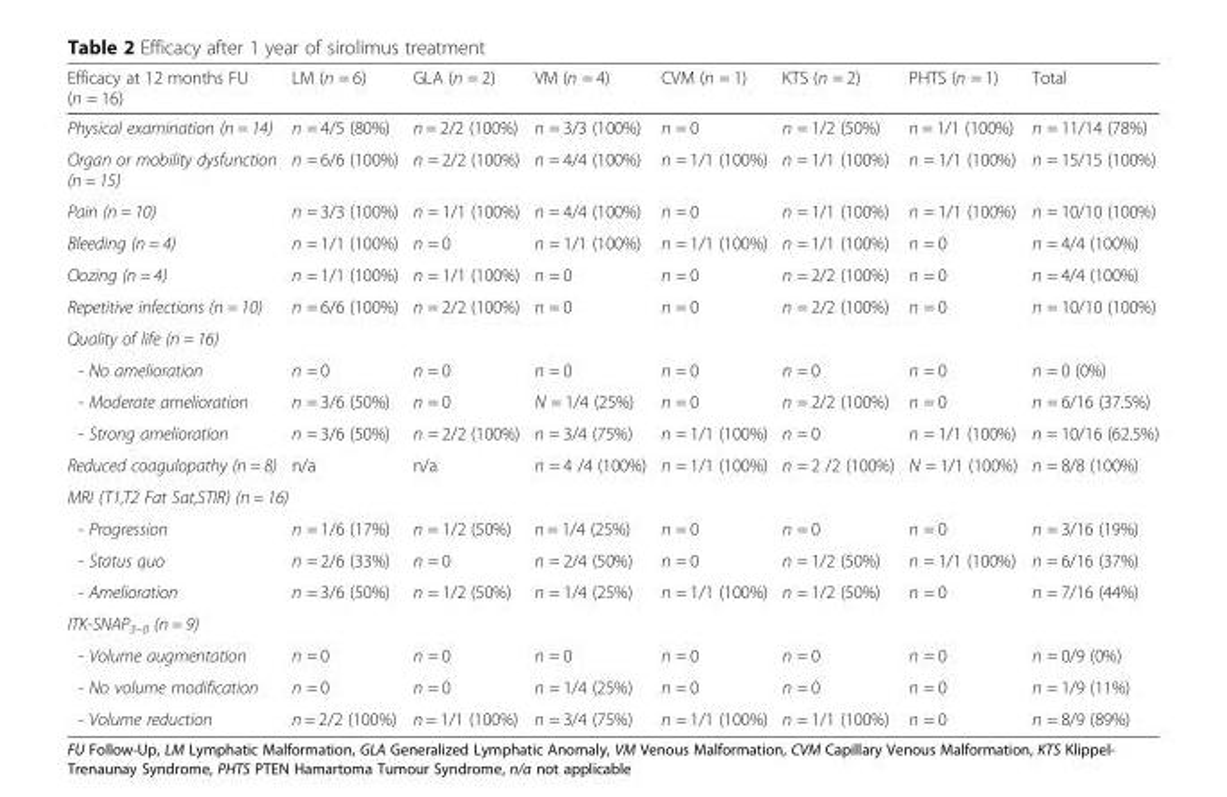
<table><thead><tr><td>Efficacy at 12 months FU (n = 16)</td><td>LM (n = 6)</td><td>GLA (n = 2)</td><td>VM (n = 4)</td><td>CVM (n = 1)</td><td>KTS (n = 2)</td><td>PHTS (n = 1)</td><td>Total</td></tr></thead><tbody><tr><td>Physical examination (n = 14)</td><td>n = 4/5 (80%)</td><td>n = 2/2 (100%)</td><td>n = 3/3 (100%)</td><td>n = 0</td><td>n = 1/2 (50%)</td><td>n = 1/1 (100%)</td><td>n = 11/14 (78%)</td></tr><tr><td>Organ or mobility dysfunction (n = 15)</td><td>n = 6/6 (100%)</td><td>n = 2/2 (100%)</td><td>n = 4/4 (100%)</td><td>n = 1/1 (100%)</td><td>n = 1/1 (100%)</td><td>n = 1/1 (100%)</td><td>n = 15/15 (100%)</td></tr><tr><td>Pain (n = 10)</td><td>n = 3/3 (100%)</td><td>n = 1/1 (100%)</td><td>n = 4/4 (100%)</td><td>n = 0</td><td>n = 1/1 (100%)</td><td>n = 1/1 (100%)</td><td>n = 10/10 (100%)</td></tr><tr><td>Bleeding (n = 4)</td><td>n = 1/1 (100%)</td><td>n = 0</td><td>n = 1/1 (100%)</td><td>n = 1/1 (100%)</td><td>n = 1/1 (100%)</td><td>n = 0</td><td>n = 4/4 (100%)</td></tr><tr><td>Oozing (n = 4)</td><td>n = 1/1 (100%)</td><td>n = 1/1 (100%)</td><td>n = 0</td><td>n = 0</td><td>n = 2/2 (100%)</td><td>n = 0</td><td>n = 4/4 (100%)</td></tr><tr><td>Repetitive infections (n = 10)</td><td>n = 6/6 (100%)</td><td>n = 2/2 (100%)</td><td>n = 0</td><td>n = 0</td><td>n = 2/2 (100%)</td><td>n = 0</td><td>n = 10/10 (100%)</td></tr><tr><td colspan="8">Quality of life (n = 16)</td></tr><tr><td>- No amelioration</td><td>n = 0</td><td>n = 0</td><td>n = 0</td><td>n = 0</td><td>n = 0</td><td>n = 0</td><td>n = 0 (0%)</td></tr><tr><td>- Moderate amelioration</td><td>n = 3/6 (50%)</td><td>n = 0</td><td>N = 1/4 (25%)</td><td>n = 0</td><td>n = 2/2 (100%)</td><td>n = 0</td><td>n = 6/16 (37.5%)</td></tr><tr><td>- Strong amelioration</td><td>n = 3/6 (50%)</td><td>n = 2/2 (100%)</td><td>n = 3/4 (75%)</td><td>n = 1/1 (100%)</td><td>n = 0</td><td>n = 1/1 (100%)</td><td>n = 10/16 (62.5%)</td></tr><tr><td>Reduced coagulopathy (n = 8)</td><td>n/a</td><td>n/a</td><td>n = 4 /4 (100%)</td><td>n = 1/1 (100%)</td><td>n = 2 /2 (100%)</td><td>N = 1/1 (100%)</td><td>n = 8/8 (100%)</td></tr><tr><td colspan="8">MRI (T1,T2 Fat Sat,STIR) (n = 16)</td></tr><tr><td>- Progression</td><td>n = 1/6 (17%)</td><td>n = 1/2 (50%)</td><td>n = 1/4 (25%)</td><td>n = 0</td><td>n = 0</td><td>n = 0</td><td>n = 3/16 (19%)</td></tr><tr><td>- Status quo</td><td>n = 2/6 (33%)</td><td>n = 0</td><td>n = 2/4 (50%)</td><td>n = 0</td><td>n = 1/2 (50%)</td><td>n = 1/1 (100%)</td><td>n = 6/16 (37%)</td></tr><tr><td>- Amelioration</td><td>n = 3/6 (50%)</td><td>n = 1/2 (50%)</td><td>n = 1/4 (25%)</td><td>n = 1/1 (100%)</td><td>n = 1/2 (50%)</td><td>n = 0</td><td>n = 7/16 (44%)</td></tr><tr><td colspan="8">ITK-SNAP<sub>3–0</sub> (n = 9)</td></tr><tr><td>- Volume augmentation</td><td>n = 0</td><td>n = 0</td><td>n = 0</td><td>n = 0</td><td>n = 0</td><td>n = 0</td><td>n = 0/9 (0%)</td></tr><tr><td>- No volume modification</td><td>n = 0</td><td>n = 0</td><td>n = 1/4 (25%)</td><td>n = 0</td><td>n = 0</td><td>n = 0</td><td>n = 1/9 (11%)</td></tr><tr><td>- Volume reduction</td><td>n = 2/2 (100%)</td><td>n = 1/1 (100%)</td><td>n = 3/4 (75%)</td><td>n = 1/1 (100%)</td><td>n = 1/1 (100%)</td><td>n = 0</td><td>n = 8/9 (89%)</td></tr></tbody></table>